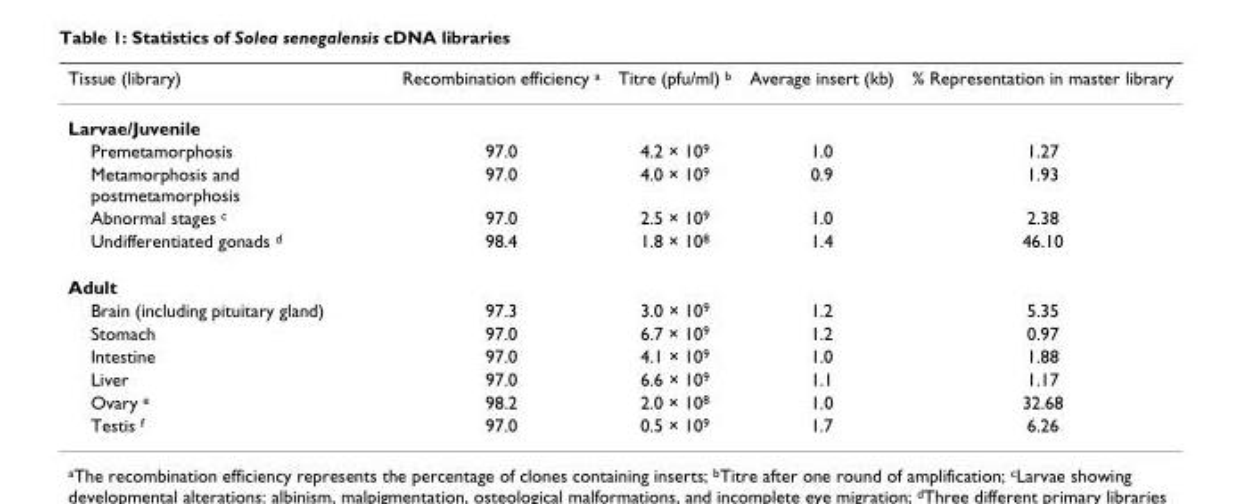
<table><thead><tr><td>Tissue (library)</td><td>Recombination efficiency <sup>a</sup></td><td>Titre (pfu/ml) <sup>b</sup></td><td>Average insert (kb)</td><td>% Representation in master library</td></tr></thead><tbody><tr><td colspan="5">Larvae/Juvenile</td></tr><tr><td>Premetamorphosis</td><td>97.0</td><td>4.2 × 10<sup>9</sup></td><td>1.0</td><td>1.27</td></tr><tr><td>Metamorphosis and postmetamorphosis</td><td>97.0</td><td>4.0 × 10<sup>9</sup></td><td>0.9</td><td>1.93</td></tr><tr><td>Abnormal stages <sup>c</sup></td><td>97.0</td><td>2.5 × 10<sup>9</sup></td><td>1.0</td><td>2.38</td></tr><tr><td>Undifferentiated gonads <sup>d</sup></td><td>98.4</td><td>1.8 × 10<sup>8</sup></td><td>1.4</td><td>46.10</td></tr><tr><td colspan="5">Adult</td></tr><tr><td>Brain (including pituitary gland)</td><td>97.3</td><td>3.0 × 10<sup>9</sup></td><td>1.2</td><td>5.35</td></tr><tr><td>Stomach</td><td>97.0</td><td>6.7 × 10<sup>9</sup></td><td>1.2</td><td>0.97</td></tr><tr><td>Intestine</td><td>97.0</td><td>4.1 × 10<sup>9</sup></td><td>1.0</td><td>1.88</td></tr><tr><td>Liver</td><td>97.0</td><td>6.6 × 10<sup>9</sup></td><td>1.1</td><td>1.17</td></tr><tr><td>Ovary <sup>e</sup></td><td>98.2</td><td>2.0 × 10<sup>8</sup></td><td>1.0</td><td>32.68</td></tr><tr><td>Testis <sup>f</sup></td><td>97.0</td><td>0.5 × 10<sup>9</sup></td><td>1.7</td><td>6.26</td></tr></tbody></table>